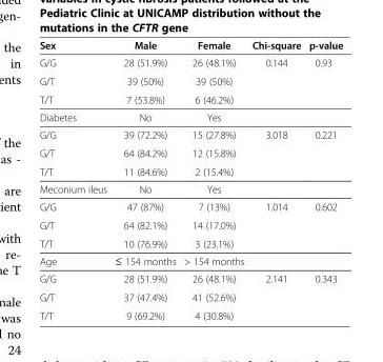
<table><thead><tr><td>Sex</td><td>Male</td><td>Female</td><td>Chi-square</td><td>p-value</td></tr></thead><tbody><tr><td>G/G</td><td>28 (51.9%)</td><td>26 (48.1%)</td><td>0.144</td><td>0.93</td></tr><tr><td>G/T</td><td>39 (50%)</td><td>39 (50%)</td><td></td><td></td></tr><tr><td>T/T</td><td>7 (53.8%)</td><td>6 (46.2%)</td><td></td><td></td></tr><tr><td>Diabetes</td><td>No</td><td>Yes</td><td></td><td></td></tr><tr><td>G/G</td><td>39 (72.2%)</td><td>15 (27.8%)</td><td>3.018</td><td>0.221</td></tr><tr><td>G/T</td><td>64 (84.2%)</td><td>12 (15.8%)</td><td></td><td></td></tr><tr><td>T/T</td><td>11 (84.6%)</td><td>2 (15.4%)</td><td></td><td></td></tr><tr><td>Meconium ileus</td><td>No</td><td>Yes</td><td></td><td></td></tr><tr><td>G/G</td><td>47 (87%)</td><td>7 (13%)</td><td>1.014</td><td>0.602</td></tr><tr><td>G/T</td><td>64 (82.1%)</td><td>14 (17.0%)</td><td></td><td></td></tr><tr><td>T/T</td><td>10 (76.9%)</td><td>3 (23.1%)</td><td></td><td></td></tr><tr><td>Age</td><td>≤ 154 months</td><td>&gt; 154 months</td><td></td><td></td></tr><tr><td>G/G</td><td>28 (51.9%)</td><td>26 (48.1%)</td><td>2.141</td><td>0.343</td></tr><tr><td>G/T</td><td>37 (47.4%)</td><td>41 (52.6%)</td><td></td><td></td></tr><tr><td>T/T</td><td>9 (69.2%)</td><td>4 (30.8%)</td><td></td><td></td></tr></tbody></table>